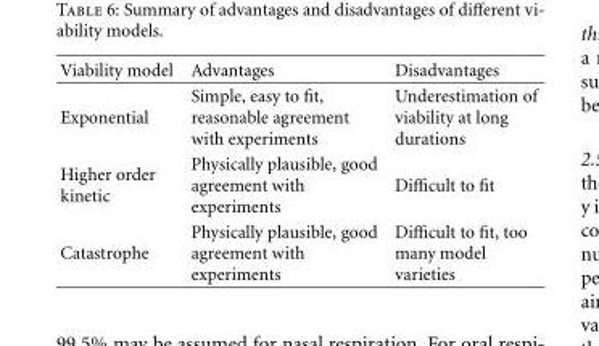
<table><thead><tr><td>Viability model</td><td>Advantages</td><td>Disadvantages</td></tr></thead><tbody><tr><td>Exponential</td><td>Simple, easy to fit, reasonable agreement with experiments</td><td>Underestimation of viability at long durations</td></tr><tr><td>Higher order kinetic</td><td>Physically plausible, good agreement with experiments</td><td>Difficult to fit</td></tr><tr><td>Catastrophe</td><td>Physically plausible, good agreement with experiments</td><td>Difficult to fit, too many model varieties</td></tr></tbody></table>